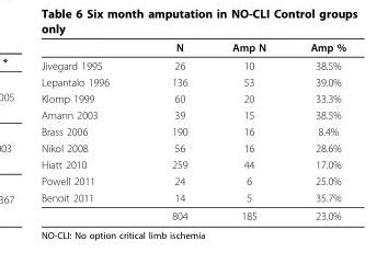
<table><thead><tr><td></td><td>N</td><td>Amp N</td><td>Amp %</td></tr></thead><tbody><tr><td>Jivegard 1995</td><td>26</td><td>10</td><td>38.5%</td></tr><tr><td>Lepantalo 1996</td><td>136</td><td>53</td><td>39.0%</td></tr><tr><td>Klomp 1999</td><td>60</td><td>20</td><td>33.3%</td></tr><tr><td>Amann 2003</td><td>39</td><td>15</td><td>38.5%</td></tr><tr><td>Brass 2006</td><td>190</td><td>16</td><td>8.4%</td></tr><tr><td>Nikol 2008</td><td>56</td><td>16</td><td>28.6%</td></tr><tr><td>Hiatt 2010</td><td>259</td><td>44</td><td>17.0%</td></tr><tr><td>Powell 2011</td><td>24</td><td>6</td><td>25.0%</td></tr><tr><td rowspan="2">Benoit 2011</td><td>14</td><td>5</td><td>35.7%</td></tr><tr><td>804</td><td>185</td><td>23.0%</td></tr></tbody></table>